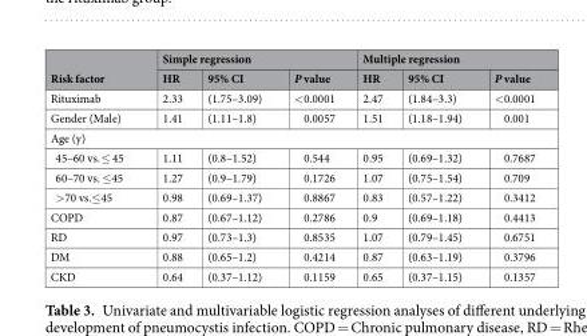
<table><thead><tr><td rowspan="2">Risk factor</td><td colspan="3">Simple regression</td><td colspan="3">Multiple regression</td></tr><tr><td>HR</td><td>95% CI</td><td>P value</td><td>HR</td><td>95% CI</td><td>P value</td></tr></thead><tbody><tr><td>Rituximab</td><td>2.33</td><td>(1.75–3.09)</td><td>&lt;0.0001</td><td>2.47</td><td>(1.84–3.3)</td><td>&lt;0.0001</td></tr><tr><td>Gender (Male)</td><td>1.41</td><td>(1.11–1.8)</td><td>0.0057</td><td>1.51</td><td>(1.18–1.94)</td><td>0.001</td></tr><tr><td colspan="7">Age (y)</td></tr><tr><td>45–60 vs. ≤ 45</td><td>1.11</td><td>(0.8–1.52)</td><td>0.544</td><td>0.95</td><td>(0.69–1.32)</td><td>0.7687</td></tr><tr><td>60–70 vs. ≤45</td><td>1.27</td><td>(0.9–1.79)</td><td>0.1726</td><td>1.07</td><td>(0.75–1.54)</td><td>0.709</td></tr><tr><td>&gt;70 vs.≤45</td><td>0.98</td><td>(0.69–1.37)</td><td>0.8867</td><td>0.83</td><td>(0.57–1.22)</td><td>0.3412</td></tr><tr><td>COPD</td><td>0.87</td><td>(0.67–1.12)</td><td>0.2786</td><td>0.9</td><td>(0.69–1.18)</td><td>0.4413</td></tr><tr><td>RD</td><td>0.97</td><td>(0.73–1.3)</td><td>0.8535</td><td>1.07</td><td>(0.79–1.45)</td><td>0.6751</td></tr><tr><td>DM</td><td>0.88</td><td>(0.65–1.2)</td><td>0.4214</td><td>0.87</td><td>(0.63–1.19)</td><td>0.3796</td></tr><tr><td>CKD</td><td>0.64</td><td>(0.37–1.12)</td><td>0.1159</td><td>0.65</td><td>(0.37–1.15)</td><td>0.1357</td></tr></tbody></table>